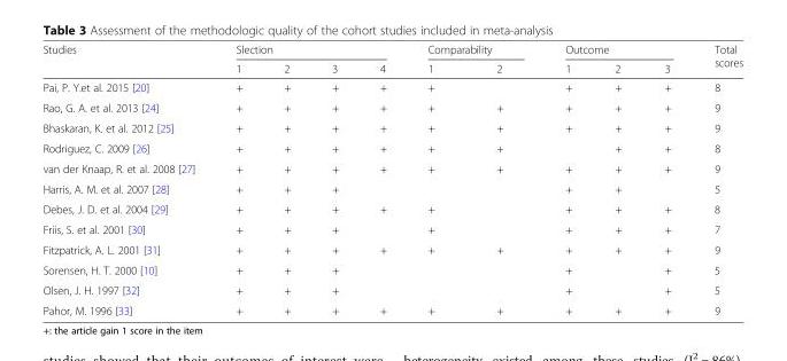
<table><thead><tr><td rowspan="2">Studies</td><td colspan="4">Slection</td><td colspan="2">Comparability</td><td colspan="3">Outcome</td><td rowspan="2">Total scores</td></tr><tr><td>1</td><td>2</td><td>3</td><td>4</td><td>1</td><td>2</td><td>1</td><td>2</td><td>3</td></tr></thead><tbody><tr><td>Pai, P. Y.et al. 2015 [20]</td><td>+</td><td>+</td><td>+</td><td>+</td><td>+</td><td></td><td>+</td><td>+</td><td>+</td><td>8</td></tr><tr><td>Rao, G. A. et al. 2013 [24]</td><td>+</td><td>+</td><td>+</td><td>+</td><td>+</td><td>+</td><td>+</td><td>+</td><td>+</td><td>9</td></tr><tr><td>Bhaskaran, K. et al. 2012 [25]</td><td>+</td><td>+</td><td>+</td><td>+</td><td>+</td><td>+</td><td>+</td><td>+</td><td>+</td><td>9</td></tr><tr><td>Rodriguez, C. 2009 [26]</td><td>+</td><td>+</td><td>+</td><td>+</td><td>+</td><td>+</td><td></td><td>+</td><td>+</td><td>8</td></tr><tr><td>van der Knaap, R. et al. 2008 [27]</td><td>+</td><td>+</td><td>+</td><td>+</td><td>+</td><td>+</td><td>+</td><td>+</td><td>+</td><td>9</td></tr><tr><td>Harris, A. M. et al. 2007 [28]</td><td>+</td><td>+</td><td>+</td><td></td><td></td><td></td><td>+</td><td>+</td><td></td><td>5</td></tr><tr><td>Debes, J. D. et al. 2004 [29]</td><td>+</td><td>+</td><td>+</td><td>+</td><td>+</td><td></td><td>+</td><td>+</td><td>+</td><td>8</td></tr><tr><td>Friis, S. et al. 2001 [30]</td><td>+</td><td>+</td><td>+</td><td></td><td>+</td><td></td><td>+</td><td>+</td><td>+</td><td>7</td></tr><tr><td>Fitzpatrick, A. L. 2001 [31]</td><td>+</td><td>+</td><td>+</td><td>+</td><td>+</td><td>+</td><td>+</td><td>+</td><td>+</td><td>9</td></tr><tr><td>Sorensen, H. T. 2000 [10]</td><td>+</td><td>+</td><td>+</td><td></td><td></td><td></td><td>+</td><td></td><td>+</td><td>5</td></tr><tr><td>Olsen, J. H. 1997 [32]</td><td>+</td><td>+</td><td>+</td><td></td><td></td><td></td><td>+</td><td></td><td>+</td><td>5</td></tr><tr><td>Pahor, M. 1996 [33]</td><td>+</td><td>+</td><td>+</td><td>+</td><td>+</td><td>+</td><td>+</td><td>+</td><td>+</td><td>9</td></tr></tbody></table>